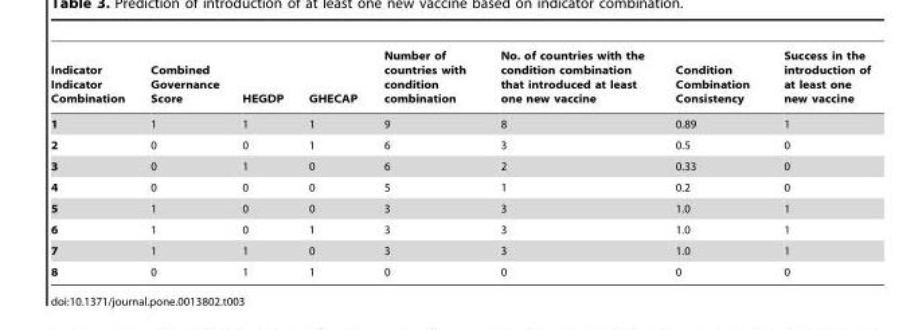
<table><thead><tr><td>Indicator Indicator Combination</td><td>Combined Governance Score</td><td>HEGDP</td><td>GHECAP</td><td>Number of countries with condition combination</td><td>No. of countries with the condition combination that introduced at least one new vaccine</td><td>Condition Combination Consistency</td><td>Success in the introduction of at least one new vaccine</td></tr></thead><tbody><tr><td>1</td><td>1</td><td>1</td><td>1</td><td>9</td><td>8</td><td>0.89</td><td>1</td></tr><tr><td>2</td><td>0</td><td>0</td><td>1</td><td>6</td><td>3</td><td>0.5</td><td>0</td></tr><tr><td>3</td><td>0</td><td>1</td><td>0</td><td>6</td><td>2</td><td>0.33</td><td>0</td></tr><tr><td>4</td><td>0</td><td>0</td><td>0</td><td>5</td><td>1</td><td>0.2</td><td>0</td></tr><tr><td>5</td><td>1</td><td>0</td><td>0</td><td>3</td><td>3</td><td>1.0</td><td>1</td></tr><tr><td>6</td><td>1</td><td>0</td><td>1</td><td>3</td><td>3</td><td>1.0</td><td>1</td></tr><tr><td>7</td><td>1</td><td>1</td><td>0</td><td>3</td><td>3</td><td>1.0</td><td>1</td></tr><tr><td>8</td><td>0</td><td>1</td><td>1</td><td>0</td><td>0</td><td>0</td><td>0</td></tr></tbody></table>